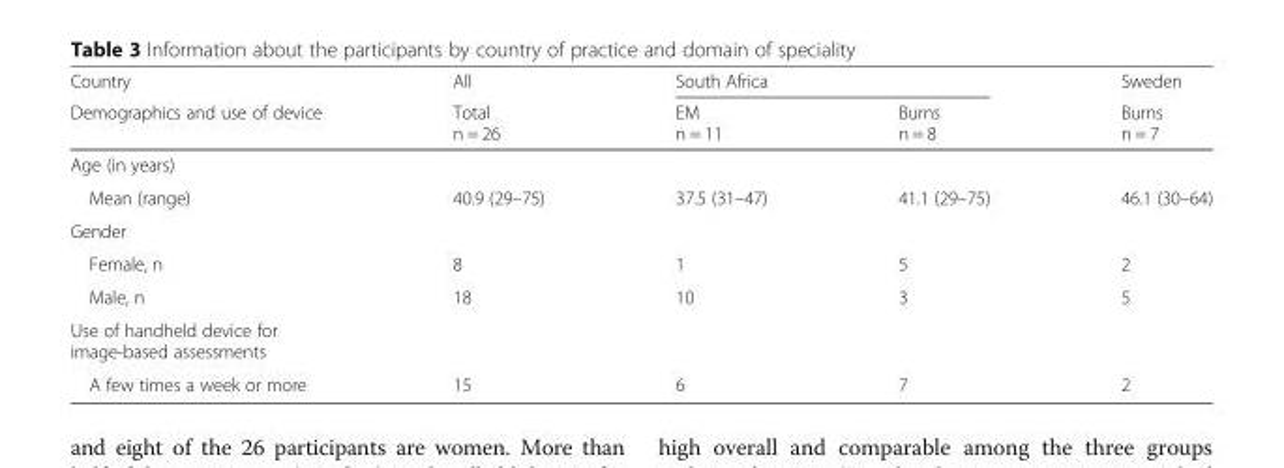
<table><thead><tr><td rowspan="2">Country Demographics and use of device</td><td rowspan="2">All Total n = 26</td><td colspan="2">South Africa</td><td rowspan="2">Sweden Burns n = 7</td></tr><tr><td>EM n = 11</td><td>Burns n = 8</td></tr></thead><tbody><tr><td colspan="5">Age (in years)</td></tr><tr><td>Mean (range)</td><td>40.9 (29–75)</td><td>37.5 (31–47)</td><td>41.1 (29–75)</td><td>46.1 (30–64)</td></tr><tr><td colspan="5">Gender</td></tr><tr><td>Female, n</td><td>8</td><td>1</td><td>5</td><td>2</td></tr><tr><td>Male, n</td><td>18</td><td>10</td><td>3</td><td>5</td></tr><tr><td colspan="5">Use of handheld device for image-based assessments</td></tr><tr><td>A few times a week or more</td><td>15</td><td>6</td><td>7</td><td>2</td></tr></tbody></table>